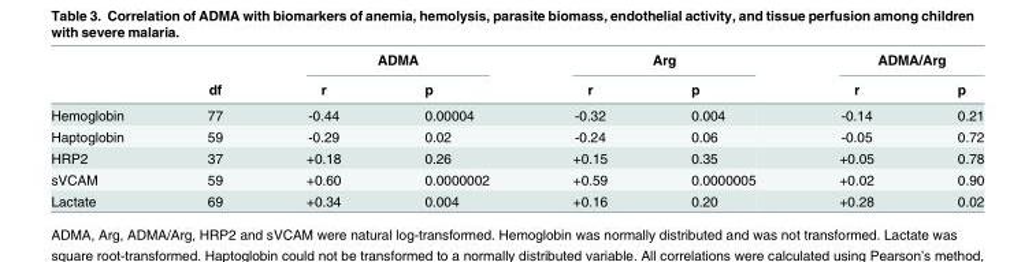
<table><thead><tr><td rowspan="2"></td><td rowspan="2">df</td><td colspan="2">ADMA</td><td colspan="2">Arg</td><td colspan="2">ADMA/Arg</td></tr><tr><td>r</td><td>p</td><td>r</td><td>p</td><td>r</td><td>p</td></tr></thead><tbody><tr><td>Hemoglobin</td><td>77</td><td>-0.44</td><td>0.00004</td><td>-0.32</td><td>0.004</td><td>-0.14</td><td>0.21</td></tr><tr><td>Haptoglobin</td><td>59</td><td>-0.29</td><td>0.02</td><td>-0.24</td><td>0.06</td><td>-0.05</td><td>0.72</td></tr><tr><td>HRP2</td><td>37</td><td>+0.18</td><td>0.26</td><td>+0.15</td><td>0.35</td><td>+0.05</td><td>0.78</td></tr><tr><td>sVCAM</td><td>59</td><td>+0.60</td><td>0.0000002</td><td>+0.59</td><td>0.0000005</td><td>+0.02</td><td>0.90</td></tr><tr><td>Lactate</td><td>69</td><td>+0.34</td><td>0.004</td><td>+0.16</td><td>0.20</td><td>+0.28</td><td>0.02</td></tr></tbody></table>